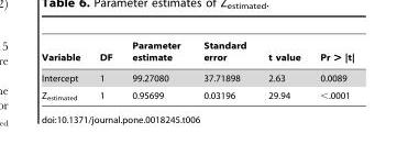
<table><thead><tr><td>Variable</td><td>DF</td><td>Parameter estimate</td><td>Standard error</td><td>t value</td><td>Pr &gt; |t|</td></tr></thead><tbody><tr><td>Intercept</td><td>1</td><td>99.27080</td><td>37.71898</td><td>2.63</td><td>0.0089</td></tr><tr><td>Z<sub>estimated</sub></td><td>1</td><td>0.95699</td><td>0.03196</td><td>29.94</td><td>&lt;.0001</td></tr></tbody></table>